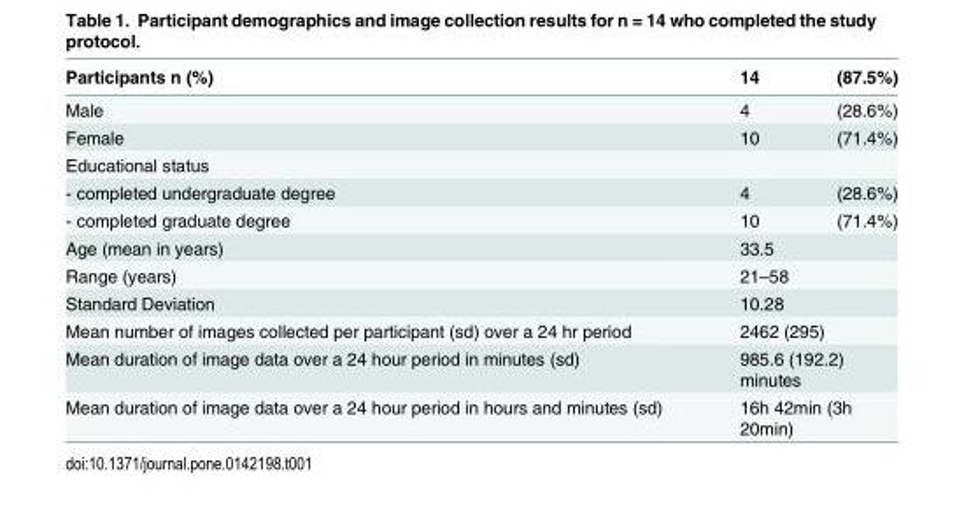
<table><thead><tr><td>Participants n (%)</td><td>14</td><td>(87.5%)</td></tr></thead><tbody><tr><td>Male</td><td>4</td><td>(28.6%)</td></tr><tr><td>Female</td><td>10</td><td>(71.4%)</td></tr><tr><td colspan="3">Educational status</td></tr><tr><td>- completed undergraduate degree</td><td>4</td><td>(28.6%)</td></tr><tr><td>- completed graduate degree</td><td>10</td><td>(71.4%)</td></tr><tr><td>Age (mean in years)</td><td colspan="2">33.5</td></tr><tr><td>Range (years)</td><td colspan="2">21–58</td></tr><tr><td>Standard Deviation</td><td colspan="2">10.28</td></tr><tr><td>Mean number of images collected per participant (sd) over a 24 hr period</td><td colspan="2">2462 (295)</td></tr><tr><td>Mean duration of image data over a 24 hour period in minutes (sd)</td><td colspan="2">985.6 (192.2) minutes</td></tr><tr><td>Mean duration of image data over a 24 hour period in hours and minutes (sd)</td><td colspan="2">16h 42min (3h 20min)</td></tr></tbody></table>